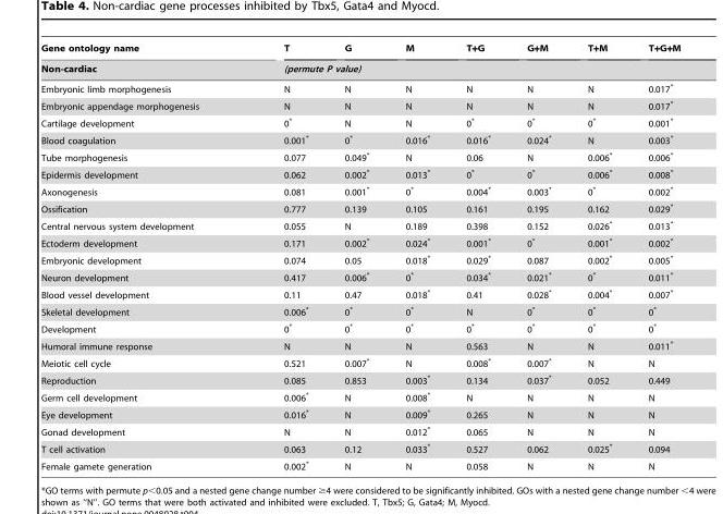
<table><thead><tr><td rowspan="2">Gene ontology name Non-cardiac</td><td>T</td><td>G</td><td>M</td><td>T+G</td><td>G+M</td><td>T+M</td><td>T+G+M</td></tr><tr><td colspan="7">(permute P value)</td></tr></thead><tbody><tr><td>Embryonic limb morphogenesis</td><td>N</td><td>N</td><td>N</td><td>N</td><td>N</td><td>N</td><td>0.017*</td></tr><tr><td>Embryonic appendage morphogenesis</td><td>N</td><td>N</td><td>N</td><td>N</td><td>N</td><td>N</td><td>0.017*</td></tr><tr><td>Cartilage development</td><td>0*</td><td>N</td><td>N</td><td>0*</td><td>0*</td><td>0*</td><td>0.001*</td></tr><tr><td>Blood coagulation</td><td>0.001*</td><td>0*</td><td>0.016*</td><td>0.016*</td><td>0.024*</td><td>N</td><td>0.003*</td></tr><tr><td>Tube morphogenesis</td><td>0.077</td><td>0.049*</td><td>N</td><td>0.06</td><td>N</td><td>0.006*</td><td>0.006*</td></tr><tr><td>Epidermis development</td><td>0.062</td><td>0.002*</td><td>0.013*</td><td>0*</td><td>0*</td><td>0.006*</td><td>0.008*</td></tr><tr><td>Axonogenesis</td><td>0.081</td><td>0.001*</td><td>0*</td><td>0.004*</td><td>0.003*</td><td>0*</td><td>0.002*</td></tr><tr><td>Ossification</td><td>0.777</td><td>0.139</td><td>0.105</td><td>0.161</td><td>0.195</td><td>0.162</td><td>0.029*</td></tr><tr><td>Central nervous system development</td><td>0.055</td><td>N</td><td>0.189</td><td>0.398</td><td>0.152</td><td>0.026*</td><td>0.013*</td></tr><tr><td>Ectoderm development</td><td>0.171</td><td>0.002*</td><td>0.024*</td><td>0.001*</td><td>0*</td><td>0.001*</td><td>0.002*</td></tr><tr><td>Embryonic development</td><td>0.074</td><td>0.05</td><td>0.018*</td><td>0.029*</td><td>0.087</td><td>0.002*</td><td>0.005*</td></tr><tr><td>Neuron development</td><td>0.417</td><td>0.006*</td><td>0*</td><td>0.034*</td><td>0.021*</td><td>0*</td><td>0.011*</td></tr><tr><td>Blood vessel development</td><td>0.11</td><td>0.47</td><td>0.018*</td><td>0.41</td><td>0.028*</td><td>0.004*</td><td>0.007*</td></tr><tr><td>Skeletal development</td><td>0.006*</td><td>0*</td><td>0*</td><td>N</td><td>0*</td><td>0*</td><td>0*</td></tr><tr><td>Development</td><td>0*</td><td>0*</td><td>0*</td><td>0*</td><td>0*</td><td>0*</td><td>0*</td></tr><tr><td>Humoral immune response</td><td>N</td><td>N</td><td>N</td><td>0.563</td><td>N</td><td>N</td><td>0.011*</td></tr><tr><td>Meiotic cell cycle</td><td>0.521</td><td>0.007*</td><td>N</td><td>0.008*</td><td>0.007*</td><td>N</td><td>N</td></tr><tr><td>Reproduction</td><td>0.085</td><td>0.853</td><td>0.003*</td><td>0.134</td><td>0.037*</td><td>0.052</td><td>0.449</td></tr><tr><td>Germ cell development</td><td>0.006*</td><td>N</td><td>0.008*</td><td>N</td><td>N</td><td>N</td><td>N</td></tr><tr><td>Eye development</td><td>0.016*</td><td>N</td><td>0.009*</td><td>0.265</td><td>N</td><td>N</td><td>N</td></tr><tr><td>Gonad development</td><td>N</td><td>N</td><td>0.012*</td><td>0.065</td><td>N</td><td>N</td><td>N</td></tr><tr><td>T cell activation</td><td>0.063</td><td>0.12</td><td>0.033*</td><td>0.527</td><td>0.062</td><td>0.025*</td><td>0.094</td></tr><tr><td>Female gamete generation</td><td>0.002*</td><td>N</td><td>N</td><td>0.058</td><td>N</td><td>N</td><td>N</td></tr></tbody></table>